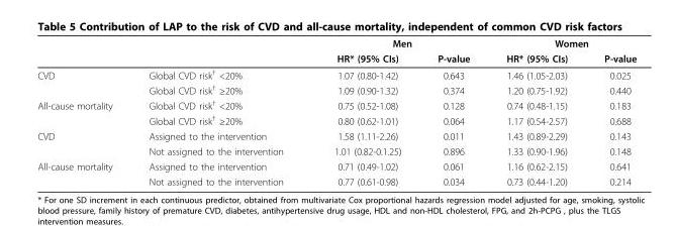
<table><thead><tr><td rowspan="2"></td><td rowspan="2"></td><td colspan="2">Men</td><td colspan="2">Women</td></tr><tr><td>HR* (95% CIs)</td><td>P-value</td><td>HR* (95% CIs)</td><td>P-value</td></tr></thead><tbody><tr><td rowspan="2">CVD</td><td>Global CVD risk<sup>†</sup> &lt;20%</td><td>1.07 (0.80-1.42)</td><td>0.643</td><td>1.46 (1.05-2.03)</td><td>0.025</td></tr><tr><td>Global CVD risk<sup>†</sup> ≥20%</td><td>1.09 (0.90-1.32)</td><td>0.374</td><td>1.20 (0.75-1.92)</td><td>0.440</td></tr><tr><td rowspan="2">All-cause mortality</td><td>Global CVD risk<sup>†</sup> &lt;20%</td><td>0.75 (0.52-1.08)</td><td>0.128</td><td>0.74 (0.48-1.15)</td><td>0.183</td></tr><tr><td>Global CVD risk<sup>†</sup> ≥20%</td><td>0.80 (0.62-1.01)</td><td>0.064</td><td>1.17 (0.54-2.57)</td><td>0.688</td></tr><tr><td rowspan="2">CVD</td><td>Assigned to the intervention</td><td>1.58 (1.11-2.26)</td><td>0.011</td><td>1.43 (0.89-2.29)</td><td>0.143</td></tr><tr><td>Not assigned to the intervention</td><td>1.01 (0.82-0.1.25)</td><td>0.896</td><td>1.33 (0.90-1.96)</td><td>0.148</td></tr><tr><td rowspan="2">All-cause mortality</td><td>Assigned to the intervention</td><td>0.71 (0.49-1.02)</td><td>0.061</td><td>1.16 (0.62-2.15)</td><td>0.641</td></tr><tr><td>Not assigned to the intervention</td><td>0.77 (0.61-0.98)</td><td>0.034</td><td>0.73 (0.44-1.20)</td><td>0.214</td></tr></tbody></table>